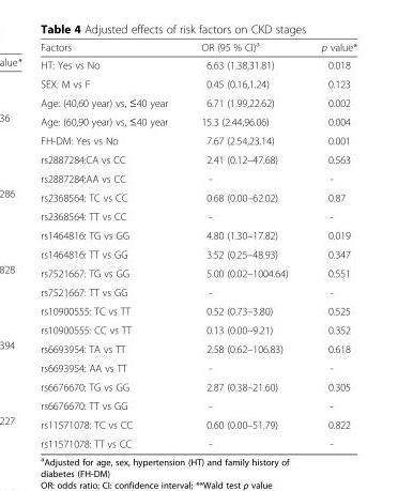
<table><thead><tr><td>Factors</td><td>OR (95 % CI)<sup>a</sup></td><td>p value*</td></tr></thead><tbody><tr><td>HT: Yes vs No</td><td>6.63 (1.38,31.81)</td><td>0.018</td></tr><tr><td>SEX: M vs F</td><td>0.45 (0.16,1.24)</td><td>0.123</td></tr><tr><td>Age: (40,60 year) vs, ≤40 year</td><td>6.71 (1.99,22.62)</td><td>0.002</td></tr><tr><td>Age: (60,90 year) vs, ≤40 year</td><td>15.3 (2.44,96.06)</td><td>0.004</td></tr><tr><td>FH-DM: Yes vs No</td><td>7.67 (2.54,23.14)</td><td>0.001</td></tr><tr><td>rs2887284:CA vs CC</td><td>2.41 (0.12–47.68)</td><td>0.563</td></tr><tr><td>rs2887284:AA vs CC</td><td>-</td><td>-</td></tr><tr><td>rs2368564: TC vs CC</td><td>0.68 (0.00–62.02)</td><td>0.87</td></tr><tr><td>rs2368564: TT vs CC</td><td>-</td><td>-</td></tr><tr><td>rs1464816: TG vs GG</td><td>4.80 (1.30–17.82)</td><td>0.019</td></tr><tr><td>rs1464816: TT vs GG</td><td>3.52 (0.25–48.93)</td><td>0.347</td></tr><tr><td>rs7521667: TG vs GG</td><td>5.00 (0.02–1004.64)</td><td>0.551</td></tr><tr><td>rs7521667: TT vs GG</td><td>-</td><td>-</td></tr><tr><td>rs10900555: TC vs TT</td><td>0.52 (0.73–3.80)</td><td>0.525</td></tr><tr><td>rs10900555: CC vs TT</td><td>0.13 (0.00–9.21)</td><td>0.352</td></tr><tr><td>rs6693954: TA vs TT</td><td>2.58 (0.62–106.83)</td><td>0.618</td></tr><tr><td>rs6693954: AA vs TT</td><td>-</td><td>-</td></tr><tr><td>rs6676670: TG vs GG</td><td>2.87 (0.38–21.60)</td><td>0.305</td></tr><tr><td>rs6676670: TT vs GG</td><td>-</td><td>-</td></tr><tr><td>rs11571078: TC vs CC</td><td>0.60 (0.00–51.79)</td><td>0.822</td></tr><tr><td>rs11571078: TT vs CC</td><td>-</td><td>-</td></tr></tbody></table>